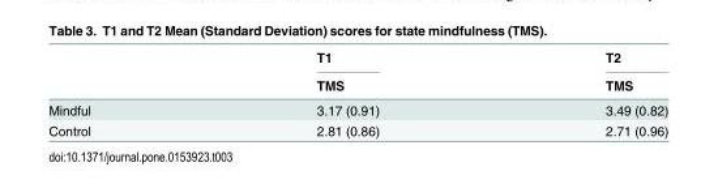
<table><thead><tr><td rowspan="2"></td><td rowspan="2">T1 TMS</td><td rowspan="2">T2 TMS</td></tr><tr></tr></thead><tbody><tr><td>Mindful</td><td>3.17 (0.91)</td><td>3.49 (0.82)</td></tr><tr><td>Control</td><td>2.81 (0.86)</td><td>2.71 (0.96)</td></tr></tbody></table>